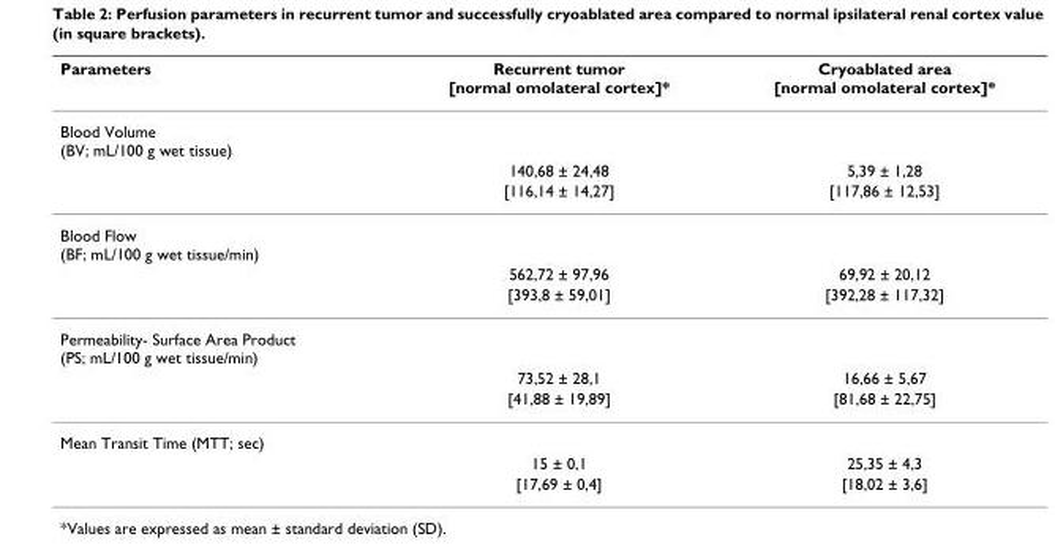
<table><thead><tr><td>Parameters</td><td>Recurrent tumor [normal omolateral cortex]*</td><td>Cryoablated area [normal omolateral cortex]*</td></tr></thead><tbody><tr><td colspan="3">Blood Volume (BV; mL/100 g wet tissue)</td></tr><tr><td></td><td>140,68 ± 24,48</td><td>5,39 ± 1,28</td></tr><tr><td></td><td>[116,14 ± 14,27]</td><td>[117,86 ± 12,53]</td></tr><tr><td colspan="3">Blood Flow (BF; mL/100 g wet tissue/min)</td></tr><tr><td></td><td>562,72 ± 97,96</td><td>69,92 ± 20,12</td></tr><tr><td></td><td>[393,8 ± 59,01]</td><td>[392,28 ± 117,32]</td></tr><tr><td colspan="3">Permeability- Surface Area Product (PS; mL/100 g wet tissue/min)</td></tr><tr><td></td><td>73,52 ± 28,1</td><td>16,66 ± 5,67</td></tr><tr><td></td><td>[41,88 ± 19,89]</td><td>[81,68 ± 22,75]</td></tr><tr><td colspan="3">Mean Transit Time (MTT; sec)</td></tr><tr><td></td><td>15 ± 0,1</td><td>25,35 ± 4,3</td></tr><tr><td></td><td>[17,69 ± 0,4]</td><td>[18,02 ± 3,6]</td></tr></tbody></table>